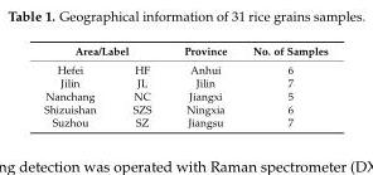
<table><thead><tr><td colspan="2">Area/Label</td><td rowspan="2">Province Anhui</td><td rowspan="2">No. of Samples 6</td></tr><tr><td>Hefei</td><td>HF</td></tr></thead><tbody><tr><td>Jilin</td><td>JL</td><td>Jilin</td><td>7</td></tr><tr><td>Nanchang</td><td>NC</td><td>Jiangxi</td><td>5</td></tr><tr><td>Shizuishan</td><td>SZS</td><td>Ningxia</td><td>6</td></tr><tr><td>Suzhou</td><td>SZ</td><td>Jiangsu</td><td>7</td></tr></tbody></table>